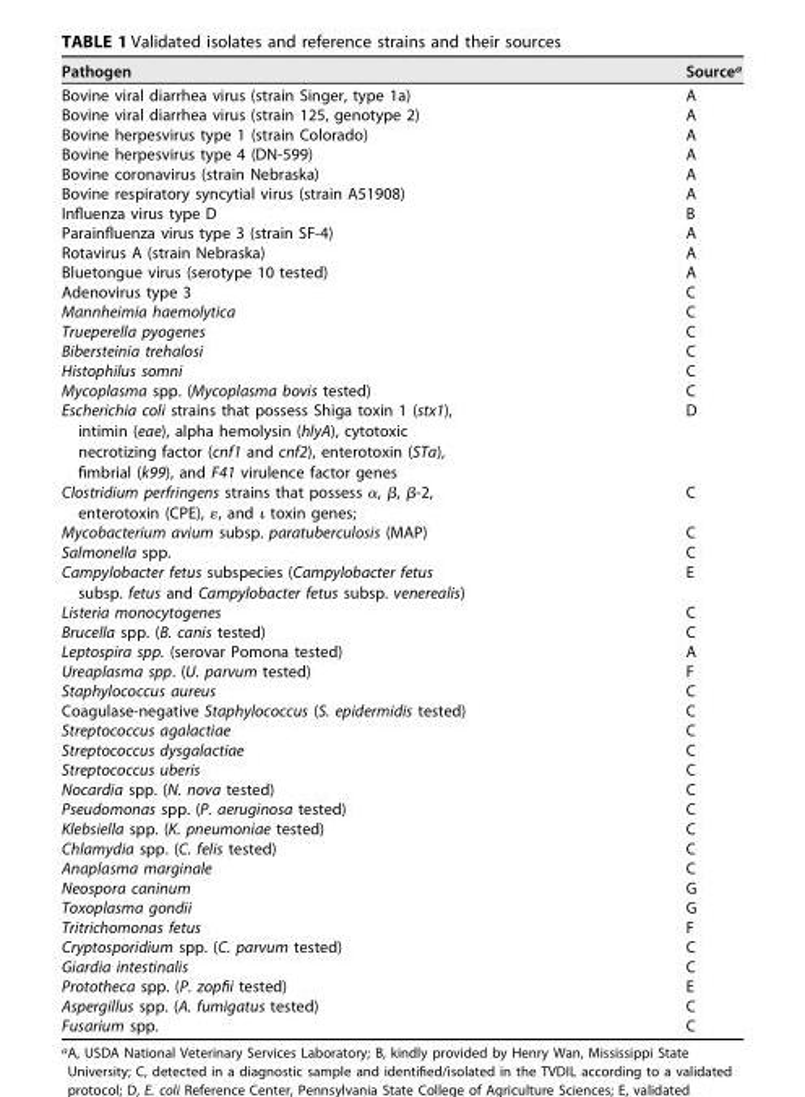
<table><thead><tr><td>Pathogen</td><td>Source<sup>a</sup></td></tr></thead><tbody><tr><td>Bovine viral diarrhea virus (strain Singer, type 1a)</td><td>A</td></tr><tr><td>Bovine viral diarrhea virus (strain 125, genotype 2)</td><td>A</td></tr><tr><td>Bovine herpesvirus type 1 (strain Colorado)</td><td>A</td></tr><tr><td>Bovine herpesvirus type 4 (DN-599)</td><td>A</td></tr><tr><td>Bovine coronavirus (strain Nebraska)</td><td>A</td></tr><tr><td>Bovine respiratory syncytial virus (strain A51908)</td><td>A</td></tr><tr><td>Influenza virus type D</td><td>B</td></tr><tr><td>Parainfluenza virus type 3 (strain SF-4)</td><td>A</td></tr><tr><td>Rotavirus A (strain Nebraska)</td><td>A</td></tr><tr><td>Bluetongue virus (serotype 10 tested)</td><td>A</td></tr><tr><td>Adenovirus type 3</td><td>C</td></tr><tr><td>Mannheimia haemolytica</td><td>C</td></tr><tr><td>Trueperella pyogenes</td><td>C</td></tr><tr><td>Bibersteinia trehalosi</td><td>C</td></tr><tr><td>Histophilus somni</td><td>C</td></tr><tr><td>Mycoplasma spp. (Mycoplasma bovis tested)</td><td>C</td></tr><tr><td>Escherichia coli strains that possess Shiga toxin 1 (stx1), intimin (eae), alpha hemolysin (hlyA), cytotoxic necrotizing factor (cnf1 and cnf2), enterotoxin (STa), fimbrial (k99), and F41 virulence factor genes</td><td>D</td></tr><tr><td>Clostridium perfringens strains that possess α, β, β-2, enterotoxin (CPE), ε, and ι toxin genes;</td><td>C</td></tr><tr><td>Mycobacterium avium subsp. paratuberculosis (MAP)</td><td>C</td></tr><tr><td>Salmonella spp.</td><td>C</td></tr><tr><td>Campylobacter fetus subspecies (Campylobacter fetus subsp. fetus and Campylobacter fetus subsp. venerealis)</td><td>E</td></tr><tr><td>Listeria monocytogenes</td><td>C</td></tr><tr><td>Brucella spp. (B. canis tested)</td><td>C</td></tr><tr><td>Leptospira spp. (serovar Pomona tested)</td><td>A</td></tr><tr><td>Ureaplasma spp. (U. parvum tested)</td><td>F</td></tr><tr><td>Staphylococcus aureus</td><td>C</td></tr><tr><td>Coagulase-negative Staphylococcus (S. epidermidis tested)</td><td>C</td></tr><tr><td>Streptococcus agalactiae</td><td>C</td></tr><tr><td>Streptococcus dysgalactiae</td><td>C</td></tr><tr><td>Streptococcus uberis</td><td>C</td></tr><tr><td>Nocardia spp. (N. nova tested)</td><td>C</td></tr><tr><td>Pseudomonas spp. (P. aeruginosa tested)</td><td>C</td></tr><tr><td>Klebsiella spp. (K. pneumoniae tested)</td><td>C</td></tr><tr><td>Chlamydia spp. (C. felis tested)</td><td>C</td></tr><tr><td>Anaplasma marginale</td><td>C</td></tr><tr><td>Neospora caninum</td><td>G</td></tr><tr><td>Toxoplasma gondii</td><td>G</td></tr><tr><td>Tritrichomonas fetus</td><td>F</td></tr><tr><td>Cryptosporidium spp. (C. parvum tested)</td><td>C</td></tr><tr><td>Giardia intestinalis</td><td>C</td></tr><tr><td>Prototheca spp. (P. zopfii tested)</td><td>E</td></tr><tr><td>Aspergillus spp. (A. fumigatus tested)</td><td>C</td></tr><tr><td>Fusarium spp.</td><td>C</td></tr></tbody></table>